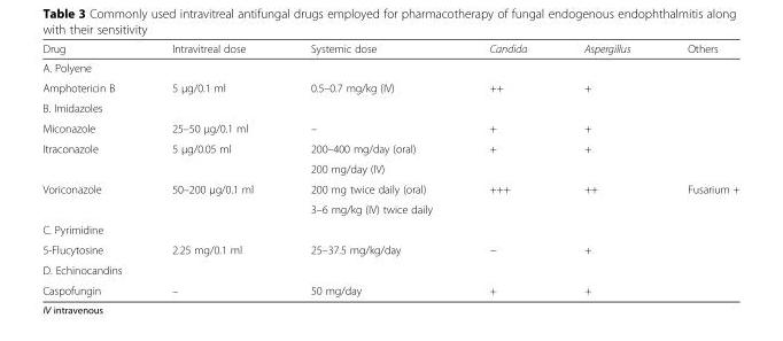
<table><thead><tr><td>Drug</td><td>Intravitreal dose</td><td>Systemic dose</td><td>Candida</td><td>Aspergillus</td><td>Others</td></tr></thead><tbody><tr><td colspan="6">A. Polyene</td></tr><tr><td>Amphotericin B</td><td>5 μg/0.1 ml</td><td>0.5–0.7 mg/kg (IV)</td><td>++</td><td>+</td><td></td></tr><tr><td colspan="6">B. Imidazoles</td></tr><tr><td>Miconazole</td><td>25–50 μg/0.1 ml</td><td>–</td><td>+</td><td>+</td><td></td></tr><tr><td rowspan="2">Itraconazole</td><td rowspan="2">5 μg/0.05 ml</td><td>200–400 mg/day (oral)</td><td rowspan="2">+</td><td rowspan="2">+</td><td rowspan="2"></td></tr><tr><td>200 mg/day (IV)</td></tr><tr><td rowspan="2">Voriconazole</td><td rowspan="2">50–200 μg/0.1 ml</td><td>200 mg twice daily (oral)</td><td rowspan="2">+++</td><td rowspan="2">++</td><td rowspan="2">Fusarium +</td></tr><tr><td>3–6 mg/kg (IV) twice daily</td></tr><tr><td colspan="6">C. Pyrimidine</td></tr><tr><td>5-Flucytosine</td><td>2.25 mg/0.1 ml</td><td>25–37.5 mg/kg/day</td><td>−</td><td>+</td><td></td></tr><tr><td colspan="6">D. Echinocandins</td></tr><tr><td>Caspofungin</td><td>–</td><td>50 mg/day</td><td>+</td><td>+</td><td></td></tr></tbody></table>